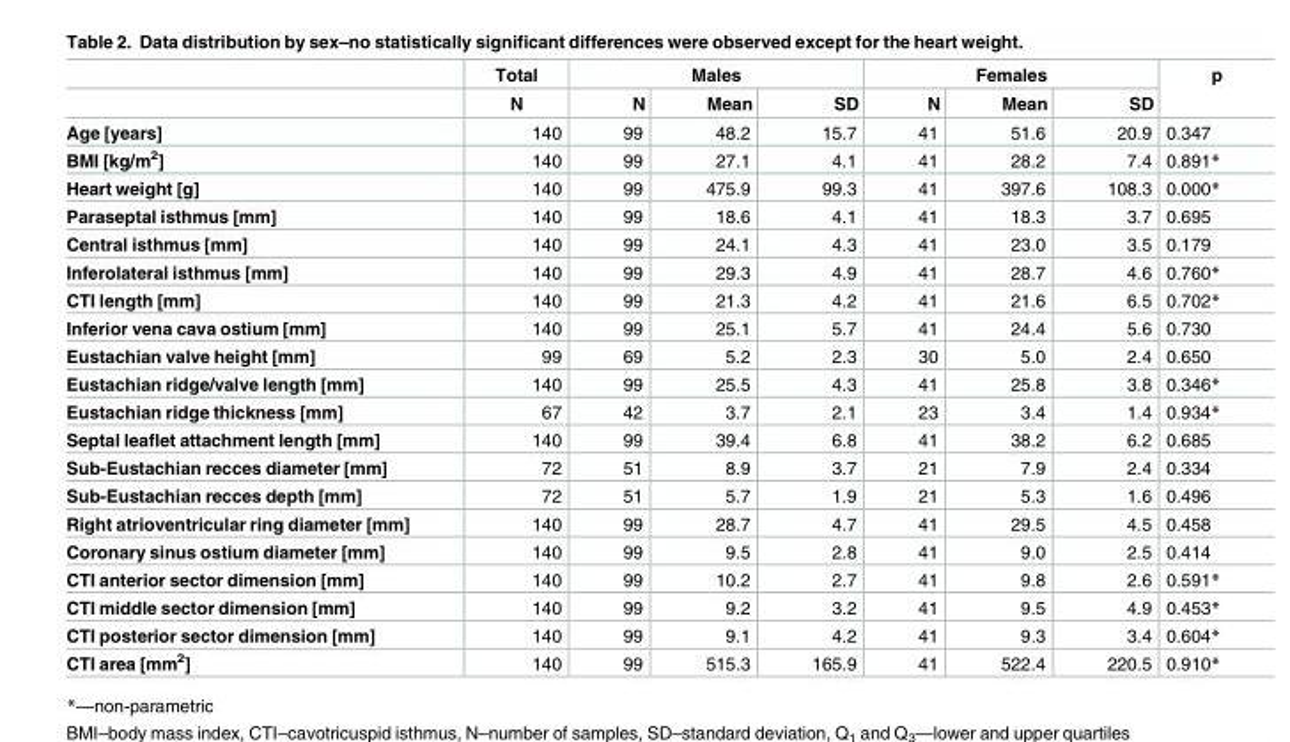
<table><thead><tr><td rowspan="2"></td><td rowspan="2">Total N</td><td colspan="3">Males</td><td colspan="3">Females</td><td rowspan="2">p</td></tr><tr><td>N</td><td>Mean</td><td>SD</td><td>N</td><td>Mean</td><td>SD</td></tr></thead><tbody><tr><td>Age [years]</td><td>140</td><td>99</td><td>48.2</td><td>15.7</td><td>41</td><td>51.6</td><td>20.9</td><td>0.347</td></tr><tr><td>BMI [kg/m<sup>2</sup>]</td><td>140</td><td>99</td><td>27.1</td><td>4.1</td><td>41</td><td>28.2</td><td>7.4</td><td>0.891*</td></tr><tr><td>Heart weight [g]</td><td>140</td><td>99</td><td>475.9</td><td>99.3</td><td>41</td><td>397.6</td><td>108.3</td><td>0.000*</td></tr><tr><td>Paraseptal isthmus [mm]</td><td>140</td><td>99</td><td>18.6</td><td>4.1</td><td>41</td><td>18.3</td><td>3.7</td><td>0.695</td></tr><tr><td>Central isthmus [mm]</td><td>140</td><td>99</td><td>24.1</td><td>4.3</td><td>41</td><td>23.0</td><td>3.5</td><td>0.179</td></tr><tr><td>Inferolateral isthmus [mm]</td><td>140</td><td>99</td><td>29.3</td><td>4.9</td><td>41</td><td>28.7</td><td>4.6</td><td>0.760*</td></tr><tr><td>CTI length [mm]</td><td>140</td><td>99</td><td>21.3</td><td>4.2</td><td>41</td><td>21.6</td><td>6.5</td><td>0.702*</td></tr><tr><td>Inferior vena cava ostium [mm]</td><td>140</td><td>99</td><td>25.1</td><td>5.7</td><td>41</td><td>24.4</td><td>5.6</td><td>0.730</td></tr><tr><td>Eustachian valve height [mm]</td><td>99</td><td>69</td><td>5.2</td><td>2.3</td><td>30</td><td>5.0</td><td>2.4</td><td>0.650</td></tr><tr><td>Eustachian ridge/valve length [mm]</td><td>140</td><td>99</td><td>25.5</td><td>4.3</td><td>41</td><td>25.8</td><td>3.8</td><td>0.346*</td></tr><tr><td>Eustachian ridge thickness [mm]</td><td>67</td><td>42</td><td>3.7</td><td>2.1</td><td>23</td><td>3.4</td><td>1.4</td><td>0.934*</td></tr><tr><td>Septal leaflet attachment length [mm]</td><td>140</td><td>99</td><td>39.4</td><td>6.8</td><td>41</td><td>38.2</td><td>6.2</td><td>0.685</td></tr><tr><td>Sub-Eustachian recces diameter [mm]</td><td>72</td><td>51</td><td>8.9</td><td>3.7</td><td>21</td><td>7.9</td><td>2.4</td><td>0.334</td></tr><tr><td>Sub-Eustachian recces depth [mm]</td><td>72</td><td>51</td><td>5.7</td><td>1.9</td><td>21</td><td>5.3</td><td>1.6</td><td>0.496</td></tr><tr><td>Right atrioventricular ring diameter [mm]</td><td>140</td><td>99</td><td>28.7</td><td>4.7</td><td>41</td><td>29.5</td><td>4.5</td><td>0.458</td></tr><tr><td>Coronary sinus ostium diameter [mm]</td><td>140</td><td>99</td><td>9.5</td><td>2.8</td><td>41</td><td>9.0</td><td>2.5</td><td>0.414</td></tr><tr><td>CTI anterior sector dimension [mm]</td><td>140</td><td>99</td><td>10.2</td><td>2.7</td><td>41</td><td>9.8</td><td>2.6</td><td>0.591*</td></tr><tr><td>CTI middle sector dimension [mm]</td><td>140</td><td>99</td><td>9.2</td><td>3.2</td><td>41</td><td>9.5</td><td>4.9</td><td>0.453*</td></tr><tr><td>CTI posterior sector dimension [mm]</td><td>140</td><td>99</td><td>9.1</td><td>4.2</td><td>41</td><td>9.3</td><td>3.4</td><td>0.604*</td></tr><tr><td>CTI area [mm<sup>2</sup>]</td><td>140</td><td>99</td><td>515.3</td><td>165.9</td><td>41</td><td>522.4</td><td>220.5</td><td>0.910*</td></tr></tbody></table>